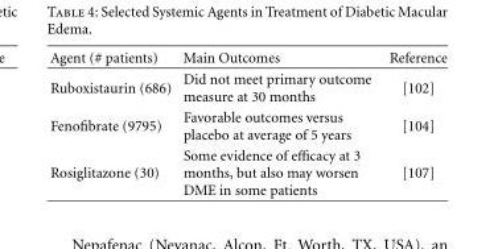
<table><thead><tr><td>Agent (# patients)</td><td>Main Outcomes</td><td>Reference</td></tr></thead><tbody><tr><td>Ruboxistaurin (686)</td><td>Did not meet primary outcome measure at 30 months</td><td>[102]</td></tr><tr><td>Fenofibrate (9795)</td><td>Favorable outcomes versus placebo at average of 5 years</td><td>[104]</td></tr><tr><td>Rosiglitazone (30)</td><td>Some evidence of efficacy at 3 months, but also may worsen DME in some patients</td><td>[107]</td></tr></tbody></table>